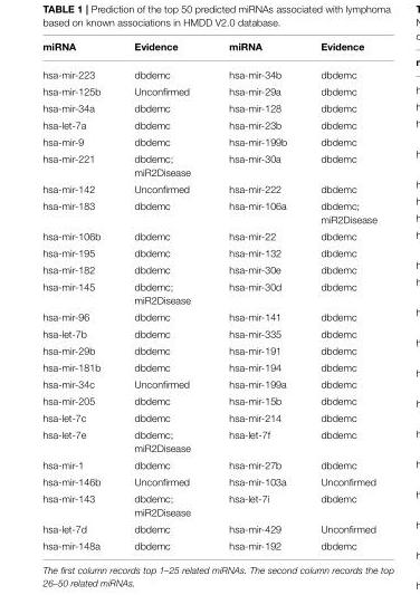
<table><thead><tr><td>miRNA</td><td>Evidence</td><td>miRNA</td><td>Evidence</td></tr></thead><tbody><tr><td>hsa-mir-223</td><td>dbdemc</td><td>hsa-mir-34b</td><td>dbdemc</td></tr><tr><td>hsa-mir-125b</td><td>Unconfirmed</td><td>hsa-mir-29a</td><td>dbdemc</td></tr><tr><td>hsa-mir-34a</td><td>dbdemc</td><td>hsa-mir-128</td><td>dbdemc</td></tr><tr><td>hsa-let-7a</td><td>dbdemc</td><td>hsa-mir-23b</td><td>dbdemc</td></tr><tr><td>hsa-mir-9</td><td>dbdemc</td><td>hsa-mir-199b</td><td>dbdemc</td></tr><tr><td>hsa-mir-221</td><td>dbdemc; miR2Disease</td><td>hsa-mir-30a</td><td>dbdemc</td></tr><tr><td>hsa-mir-142</td><td>Unconfirmed</td><td>hsa-mir-222</td><td>dbdemc</td></tr><tr><td>hsa-mir-183</td><td>dbdemc</td><td>hsa-mir-106a</td><td>dbdemc; miR2Disease</td></tr><tr><td>hsa-mir-106b</td><td>dbdemc</td><td>hsa-mir-22</td><td>dbdemc</td></tr><tr><td>hsa-mir-195</td><td>dbdemc</td><td>hsa-mir-132</td><td>dbdemc</td></tr><tr><td>hsa-mir-182</td><td>dbdemc</td><td>hsa-mir-30e</td><td>dbdemc</td></tr><tr><td>hsa-mir-145</td><td>dbdemc; miR2Disease</td><td>hsa-mir-30d</td><td>dbdemc</td></tr><tr><td>hsa-mir-96</td><td>dbdemc</td><td>hsa-mir-141</td><td>dbdemc</td></tr><tr><td>hsa-let-7b</td><td>dbdemc</td><td>hsa-mir-335</td><td>dbdemc</td></tr><tr><td>hsa-mir-29b</td><td>dbdemc</td><td>hsa-mir-191</td><td>dbdemc</td></tr><tr><td>hsa-mir-181b</td><td>dbdemc</td><td>hsa-mir-194</td><td>dbdemc</td></tr><tr><td>hsa-mir-34c</td><td>Unconfirmed</td><td>hsa-mir-199a</td><td>dbdemc</td></tr><tr><td>hsa-mir-205</td><td>dbdemc</td><td>hsa-mir-15b</td><td>dbdemc</td></tr><tr><td>hsa-let-7c</td><td>dbdemc</td><td>hsa-mir-214</td><td>dbdemc</td></tr><tr><td>hsa-let-7e</td><td>dbdemc; miR2Disease</td><td>hsa-let-7f</td><td>dbdemc</td></tr><tr><td>hsa-mir-1</td><td>dbdemc</td><td>hsa-mir-27b</td><td>dbdemc</td></tr><tr><td>hsa-mir-146b</td><td>Unconfirmed</td><td>hsa-mir-103a</td><td>Unconfirmed</td></tr><tr><td>hsa-mir-143</td><td>dbdemc; miR2Disease</td><td>hsa-let-7i</td><td>dbdemc</td></tr><tr><td>hsa-let-7d</td><td>dbdemc</td><td>hsa-mir-429</td><td>Unconfirmed</td></tr><tr><td>hsa-mir-148a</td><td>dbdemc</td><td>hsa-mir-192</td><td>dbdemc</td></tr></tbody></table>